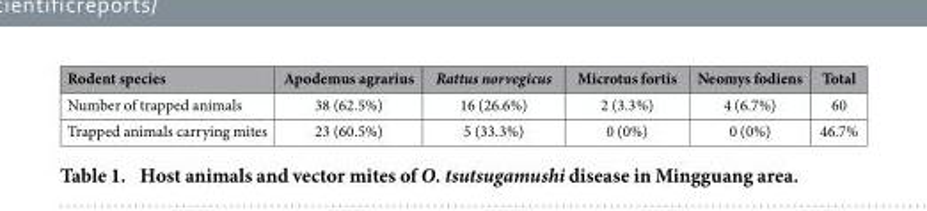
<table><thead><tr><td>Rodent species</td><td>Apodemus agrarius</td><td>Rattus norvegicus</td><td>Microtus fortis</td><td>Neomys fodiens</td><td>Total</td></tr></thead><tbody><tr><td>Number of trapped animals</td><td>38 (62.5%)</td><td>16 (26.6%)</td><td>2 (3.3%)</td><td>4 (6.7%)</td><td>60</td></tr><tr><td>Trapped animals carrying mites</td><td>23 (60.5%)</td><td>5 (33.3%)</td><td>0 (0%)</td><td>0 (0%)</td><td>46.7%</td></tr></tbody></table>